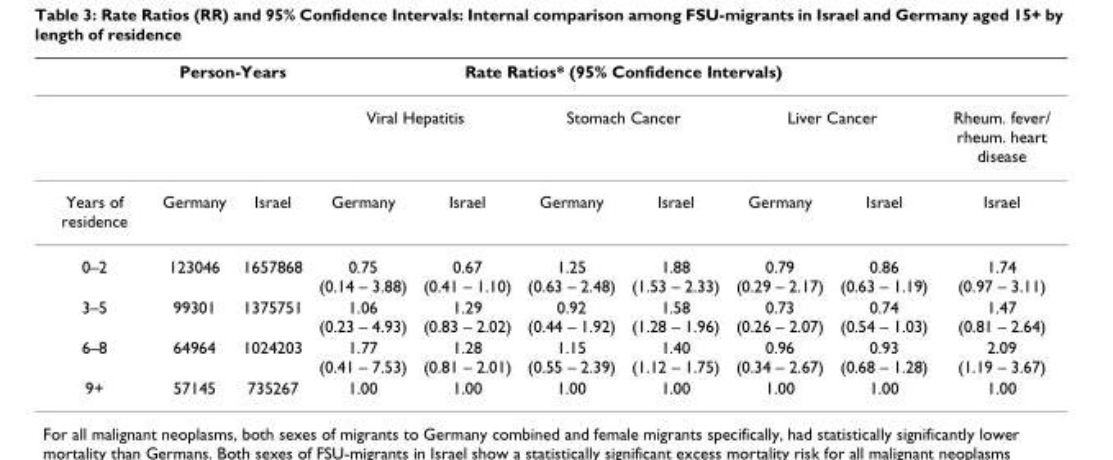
<table><thead><tr><td rowspan="3">Years of residence</td><td colspan="2">Person-Years</td><td colspan="6">Rate Ratios* (95% Confidence Intervals)</td><td rowspan="3">Rheum. fever/ rheum. heart disease Israel</td></tr><tr><td rowspan="2">Germany</td><td rowspan="2">Israel</td><td colspan="2">Viral Hepatitis</td><td colspan="2">Stomach Cancer</td><td colspan="2">Liver Cancer</td></tr><tr><td>Germany</td><td>Israel</td><td>Germany</td><td>Israel</td><td>Germany</td><td>Israel</td></tr></thead><tbody><tr><td>0–2</td><td>123046</td><td>1657868</td><td>0.75 (0.14 – 3.88)</td><td>0.67 (0.41 – 1.10)</td><td>1.25 (0.63 – 2.48)</td><td>1.88 (1.53 – 2.33)</td><td>0.79 (0.29 – 2.17)</td><td>0.86 (0.63 – 1.19)</td><td>1.74 (0.97 – 3.11)</td></tr><tr><td>3–5</td><td>99301</td><td>1375751</td><td>1.06 (0.23 – 4.93)</td><td>1.29 (0.83 – 2.02)</td><td>0.92 (0.44 – 1.92)</td><td>1.58 (1.28 – 1.96)</td><td>0.73 (0.26 – 2.07)</td><td>0.74 (0.54 – 1.03)</td><td>1.47 (0.81 – 2.64)</td></tr><tr><td>6–8</td><td>64964</td><td>1024203</td><td>1.77 (0.41 – 7.53)</td><td>1.28 (0.81 – 2.01)</td><td>1.15 (0.55 – 2.39)</td><td>1.40 (1.12 – 1.75)</td><td>0.96 (0.34 – 2.67)</td><td>0.93 (0.68 – 1.28)</td><td>2.09 (1.19 – 3.67)</td></tr><tr><td>9+</td><td>57145</td><td>735267</td><td>1.00</td><td>1.00</td><td>1.00</td><td>1.00</td><td>1.00</td><td>1.00</td><td>1.00</td></tr></tbody></table>